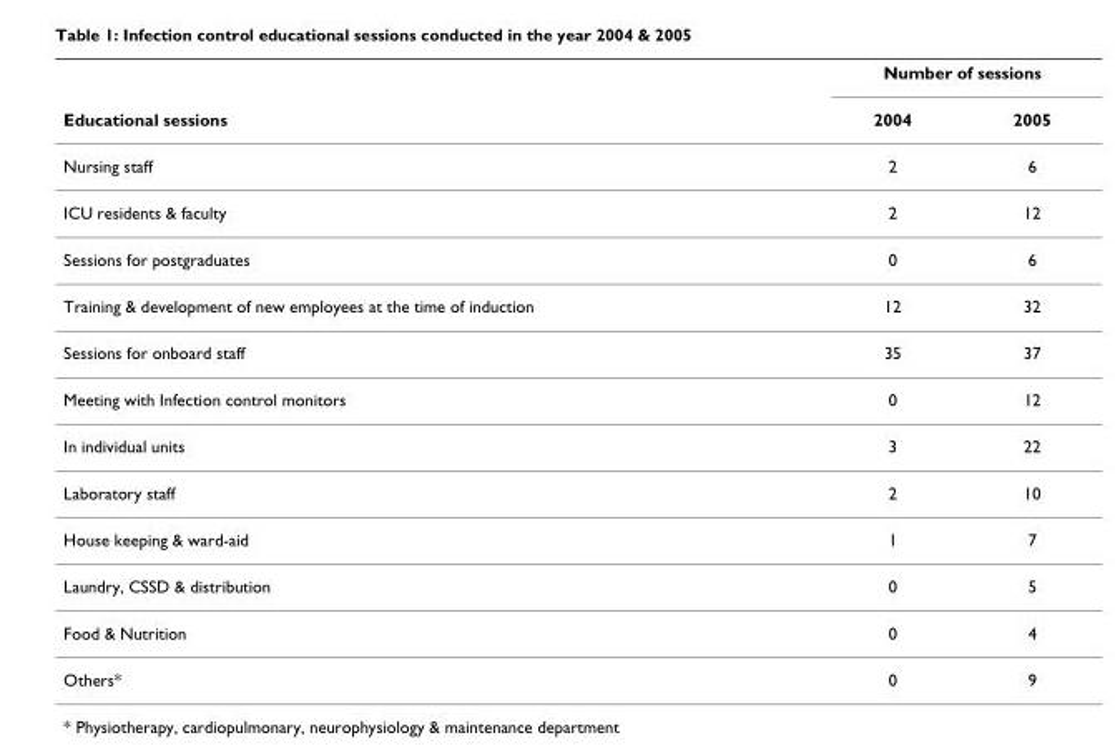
<table><thead><tr><td rowspan="2">Educational sessions</td><td colspan="2">Number of sessions</td></tr><tr><td>2004</td><td>2005</td></tr></thead><tbody><tr><td>Nursing staff</td><td>2</td><td>6</td></tr><tr><td>ICU residents &amp; faculty</td><td>2</td><td>12</td></tr><tr><td>Sessions for postgraduates</td><td>0</td><td>6</td></tr><tr><td>Training &amp; development of new employees at the time of induction</td><td>12</td><td>32</td></tr><tr><td>Sessions for onboard staff</td><td>35</td><td>37</td></tr><tr><td>Meeting with Infection control monitors</td><td>0</td><td>12</td></tr><tr><td>In individual units</td><td>3</td><td>22</td></tr><tr><td>Laboratory staff</td><td>2</td><td>10</td></tr><tr><td>House keeping &amp; ward-aid</td><td>1</td><td>7</td></tr><tr><td>Laundry, CSSD &amp; distribution</td><td>0</td><td>5</td></tr><tr><td>Food &amp; Nutrition</td><td>0</td><td>4</td></tr><tr><td>Others*</td><td>0</td><td>9</td></tr></tbody></table>